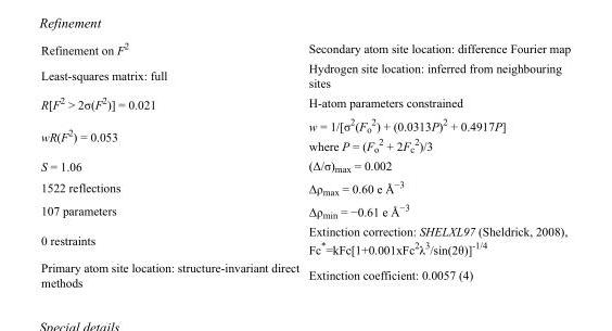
<table><tbody><tr><td>Refinement on F<sup>2</sup></td><td>Secondary atom site location: difference Fourier map</td></tr><tr><td>Least-squares matrix: full</td><td>Hydrogen site location: inferred from neighbouring sites</td></tr><tr><td>R[F<sup>2</sup> &gt; 2σ(F<sup>2</sup>)] = 0.021</td><td>H-atom parameters constrained</td></tr><tr><td>wR(F<sup>2</sup>) = 0.053</td><td>w = 1/[σ<sup>2</sup>(F<sub>o</sub> <sup>2</sup>) + (0.0313P)<sup>2</sup> + 0.4917P] where P = (F<sub>o</sub> <sup>2</sup> + 2F<sub>c</sub> <sup>2</sup>)/3</td></tr><tr><td>S = 1.06</td><td>(Δ/σ)<sub>max</sub> = 0.002</td></tr><tr><td>1522 reflections</td><td>Δρ<sub>max</sub> = 0.60 e Å<sup>−3</sup></td></tr><tr><td>107 parameters</td><td>Δρ<sub>min</sub> = −0.61 e Å<sup>−3</sup></td></tr><tr><td>0 restraints</td><td>Extinction correction: SHELXL97 (Sheldrick, 2008), Fc*=kFc[1+0.001xFc<sup>2</sup>λ<sup>3</sup>/sin(2θ)]<sup>-1/4</sup></td></tr><tr><td>Primary atom site location: structure-invariant direct methods</td><td>Extinction coefficient: 0.0057 (4)</td></tr></tbody></table>